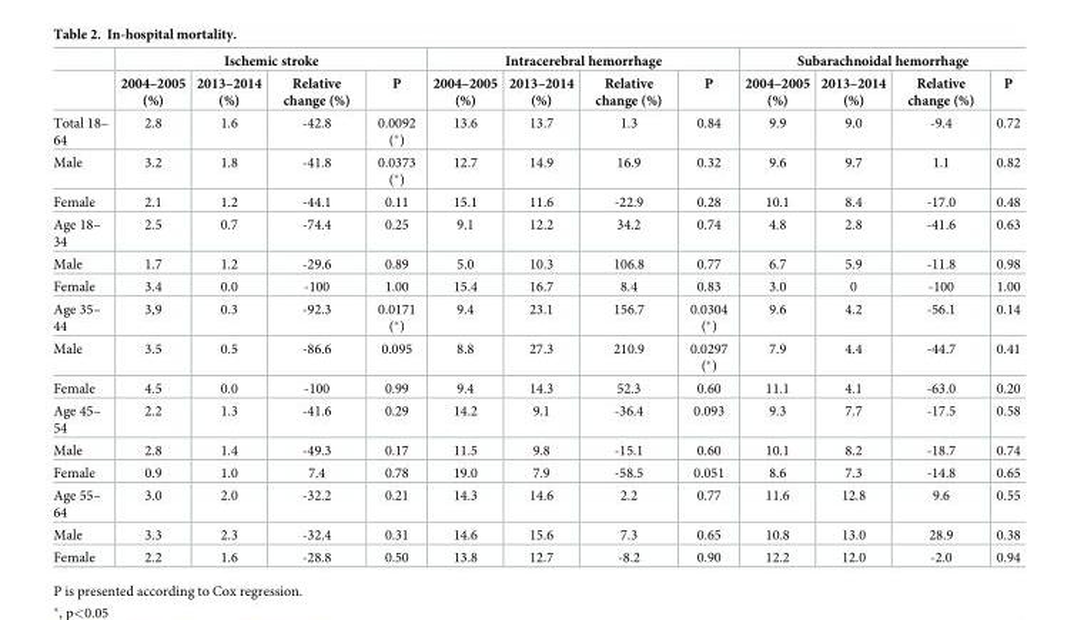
<table><thead><tr><td rowspan="2"></td><td colspan="4">Ischemic stroke</td><td colspan="4">Intracerebral hemorrhage</td><td colspan="4">Subarachnoidal hemorrhage</td></tr><tr><td>2004–2005 (%)</td><td>2013–2014 (%)</td><td>Relative change (%)</td><td>P</td><td>2004–2005 (%)</td><td>2013–2014 (%)</td><td>Relative change (%)</td><td>P</td><td>2004–2005 (%)</td><td>2013–2014 (%)</td><td>Relative change (%)</td><td>P</td></tr></thead><tbody><tr><td>Total 18– 64</td><td>2.8</td><td>1.6</td><td>-42.8</td><td>0.0092 (*)</td><td>13.6</td><td>13.7</td><td>1.3</td><td>0.84</td><td>9.9</td><td>9.0</td><td>-9.4</td><td>0.72</td></tr><tr><td>Male</td><td>3.2</td><td>1.8</td><td>-41.8</td><td>0.0373 (*)</td><td>12.7</td><td>14.9</td><td>16.9</td><td>0.32</td><td>9.6</td><td>9.7</td><td>1.1</td><td>0.82</td></tr><tr><td>Female</td><td>2.1</td><td>1.2</td><td>-44.1</td><td>0.11</td><td>15.1</td><td>11.6</td><td>-22.9</td><td>0.28</td><td>10.1</td><td>8.4</td><td>-17.0</td><td>0.48</td></tr><tr><td>Age 18– 34</td><td>2.5</td><td>0.7</td><td>-74.4</td><td>0.25</td><td>9.1</td><td>12.2</td><td>34.2</td><td>0.74</td><td>4.8</td><td>2.8</td><td>-41.6</td><td>0.63</td></tr><tr><td>Male</td><td>1.7</td><td>1.2</td><td>-29.6</td><td>0.89</td><td>5.0</td><td>10.3</td><td>106.8</td><td>0.77</td><td>6.7</td><td>5.9</td><td>-11.8</td><td>0.98</td></tr><tr><td>Female</td><td>3.4</td><td>0.0</td><td>-100</td><td>1.00</td><td>15.4</td><td>16.7</td><td>8.4</td><td>0.83</td><td>3.0</td><td>0</td><td>-100</td><td>1.00</td></tr><tr><td>Age 35– 44</td><td>3,9</td><td>0.3</td><td>-92.3</td><td>0.0171 (*)</td><td>9.4</td><td>23.1</td><td>156.7</td><td>0.0304 (*)</td><td>9.6</td><td>4.2</td><td>-56.1</td><td>0.14</td></tr><tr><td>Male</td><td>3.5</td><td>0.5</td><td>-86.6</td><td>0.095</td><td>8.8</td><td>27.3</td><td>210.9</td><td>0.0297 (*)</td><td>7.9</td><td>4.4</td><td>-44.7</td><td>0.41</td></tr><tr><td>Female</td><td>4.5</td><td>0.0</td><td>-100</td><td>0.99</td><td>9.4</td><td>14.3</td><td>52.3</td><td>0.60</td><td>11.1</td><td>4.1</td><td>-63.0</td><td>0.20</td></tr><tr><td>Age 45– 54</td><td>2.2</td><td>1.3</td><td>-41.6</td><td>0.29</td><td>14.2</td><td>9.1</td><td>-36.4</td><td>0.093</td><td>9.3</td><td>7.7</td><td>-17.5</td><td>0.58</td></tr><tr><td>Male</td><td>2.8</td><td>1.4</td><td>-49.3</td><td>0.17</td><td>11.5</td><td>9.8</td><td>-15.1</td><td>0.60</td><td>10.1</td><td>8.2</td><td>-18.7</td><td>0.74</td></tr><tr><td>Female</td><td>0.9</td><td>1.0</td><td>7.4</td><td>0.78</td><td>19.0</td><td>7.9</td><td>-58.5</td><td>0.051</td><td>8.6</td><td>7.3</td><td>-14.8</td><td>0.65</td></tr><tr><td>Age 55– 64</td><td>3.0</td><td>2.0</td><td>-32.2</td><td>0.21</td><td>14.3</td><td>14.6</td><td>2.2</td><td>0.77</td><td>11.6</td><td>12.8</td><td>9.6</td><td>0.55</td></tr><tr><td>Male</td><td>3.3</td><td>2.3</td><td>-32.4</td><td>0.31</td><td>14.6</td><td>15.6</td><td>7.3</td><td>0.65</td><td>10.8</td><td>13.0</td><td>28.9</td><td>0.38</td></tr><tr><td>Female</td><td>2.2</td><td>1.6</td><td>-28.8</td><td>0.50</td><td>13.8</td><td>12.7</td><td>-8.2</td><td>0.90</td><td>12.2</td><td>12.0</td><td>-2.0</td><td>0.94</td></tr></tbody></table>